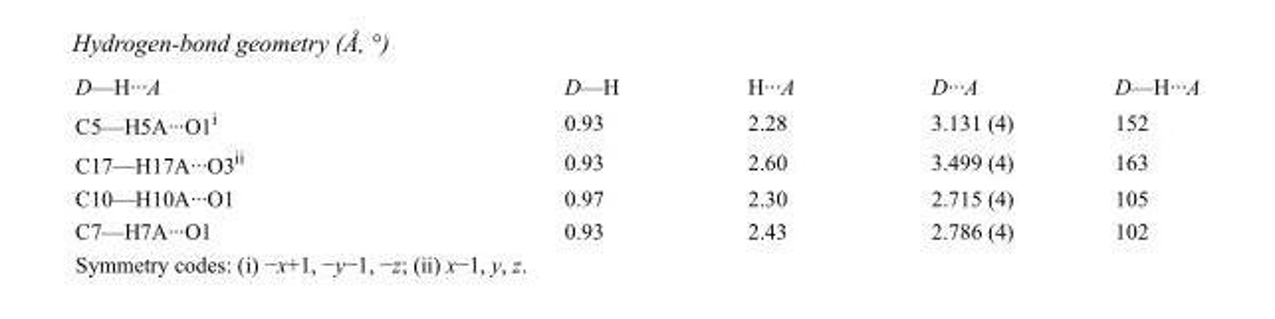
<table><tbody><tr><td>D—H···A</td><td>D—H</td><td>H···A</td><td>D···A</td><td>D—H···A</td></tr><tr><td>C5—H5A···O1<sup>i</sup></td><td>0.93</td><td>2.28</td><td>3.131 (4)</td><td>152</td></tr><tr><td>C17—H17A···O3<sup>ii</sup></td><td>0.93</td><td>2.60</td><td>3.499 (4)</td><td>163</td></tr><tr><td>C10—H10A···O1</td><td>0.97</td><td>2.30</td><td>2.715 (4)</td><td>105</td></tr><tr><td>C7—H7A···O1</td><td>0.93</td><td>2.43</td><td>2.786 (4)</td><td>102</td></tr></tbody></table>